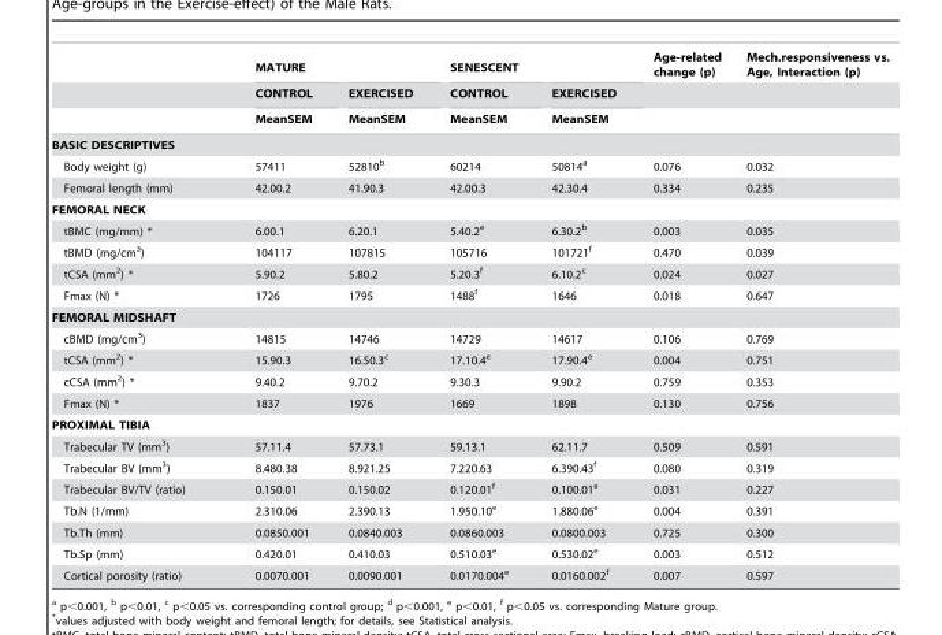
<table><thead><tr><td rowspan="3"></td><td colspan="2">MATURE</td><td colspan="2">SENESCENT</td><td rowspan="3">Age-related change (p)</td><td rowspan="3">Mech.responsiveness vs. Age, Interaction (p)</td></tr><tr><td rowspan="2">CONTROL MeanSEM</td><td rowspan="2">EXERCISED MeanSEM</td><td rowspan="2">CONTROL MeanSEM</td><td rowspan="2">EXERCISED MeanSEM</td></tr><tr></tr></thead><tbody><tr><td colspan="7">BASIC DESCRIPTIVES</td></tr><tr><td>Body weight (g)</td><td>57411</td><td>52810<sup>b</sup></td><td>60214</td><td>50814<sup>a</sup></td><td>0.076</td><td>0.032</td></tr><tr><td>Femoral length (mm)</td><td>42.00.2</td><td>41.90.3</td><td>42.00.3</td><td>42.30.4</td><td>0.334</td><td>0.235</td></tr><tr><td colspan="7">FEMORAL NECK</td></tr><tr><td>tBMC (mg/mm) *</td><td>6.00.1</td><td>6.20.1</td><td>5.40.2<sup>e</sup></td><td>6.30.2<sup>b</sup></td><td>0.003</td><td>0.035</td></tr><tr><td>tBMD (mg/cm<sup>3</sup>)</td><td>104117</td><td>107815</td><td>105716</td><td>101721<sup>f</sup></td><td>0.470</td><td>0.039</td></tr><tr><td>tCSA (mm<sup>2</sup>) *</td><td>5.90.2</td><td>5.80.2</td><td>5.20.3<sup>f</sup></td><td>6.10.2<sup>c</sup></td><td>0.024</td><td>0.027</td></tr><tr><td>Fmax (N) *</td><td>1726</td><td>1795</td><td>1488<sup>f</sup></td><td>1646</td><td>0.018</td><td>0.647</td></tr><tr><td colspan="7">FEMORAL MIDSHAFT</td></tr><tr><td>cBMD (mg/cm<sup>3</sup>)</td><td>14815</td><td>14746</td><td>14729</td><td>14617</td><td>0.106</td><td>0.769</td></tr><tr><td>tCSA (mm<sup>2</sup>) *</td><td>15.90.3</td><td>16.50.3<sup>c</sup></td><td>17.10.4<sup>e</sup></td><td>17.90.4<sup>e</sup></td><td>0.004</td><td>0.751</td></tr><tr><td>cCSA (mm<sup>2</sup>) *</td><td>9.40.2</td><td>9.70.2</td><td>9.30.3</td><td>9.90.2</td><td>0.759</td><td>0.353</td></tr><tr><td>Fmax (N) *</td><td>1837</td><td>1976</td><td>1669</td><td>1898</td><td>0.130</td><td>0.756</td></tr><tr><td colspan="7">PROXIMAL TIBIA</td></tr><tr><td>Trabecular TV (mm<sup>3</sup>)</td><td>57.11.4</td><td>57.73.1</td><td>59.13.1</td><td>62.11.7</td><td>0.509</td><td>0.591</td></tr><tr><td>Trabecular BV (mm<sup>3</sup>)</td><td>8.480.38</td><td>8.921.25</td><td>7.220.63</td><td>6.390.43<sup>f</sup></td><td>0.080</td><td>0.319</td></tr><tr><td>Trabecular BV/TV (ratio)</td><td>0.150.01</td><td>0.150.02</td><td>0.120.01<sup>f</sup></td><td>0.100.01<sup>e</sup></td><td>0.031</td><td>0.227</td></tr><tr><td>Tb.N (1/mm)</td><td>2.310.06</td><td>2.390.13</td><td>1.950.10<sup>e</sup></td><td>1.880.06<sup>e</sup></td><td>0.004</td><td>0.391</td></tr><tr><td>Tb.Th (mm)</td><td>0.0850.001</td><td>0.0840.003</td><td>0.0860.003</td><td>0.0800.003</td><td>0.725</td><td>0.300</td></tr><tr><td>Tb.Sp (mm)</td><td>0.420.01</td><td>0.410.03</td><td>0.510.03<sup>e</sup></td><td>0.530.02<sup>e</sup></td><td>0.003</td><td>0.512</td></tr><tr><td>Cortical porosity (ratio)</td><td>0.0070.001</td><td>0.0090.001</td><td>0.0170.004<sup>e</sup></td><td>0.0160.002<sup>f</sup></td><td>0.007</td><td>0.597</td></tr></tbody></table>